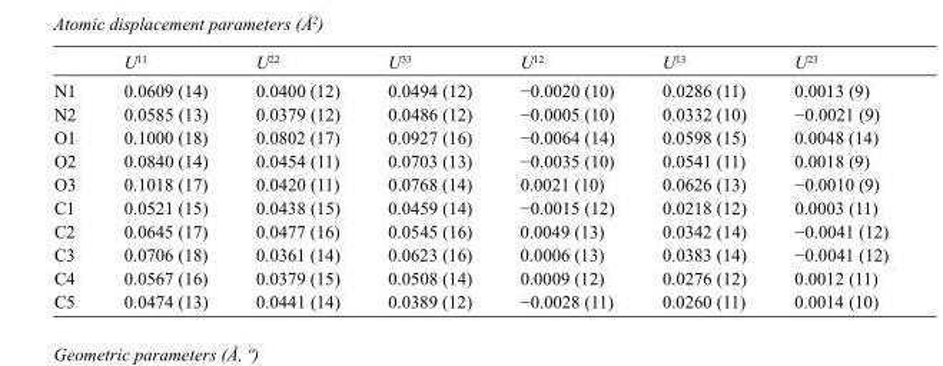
<table><thead><tr><td></td><td>U<sup>11</sup></td><td>U<sup>22</sup></td><td>U<sup>33</sup></td><td>U<sup>12</sup></td><td>U<sup>13</sup></td><td>U<sup>23</sup></td></tr></thead><tbody><tr><td>N1</td><td>0.0609 (14)</td><td>0.0400 (12)</td><td>0.0494 (12)</td><td>−0.0020 (10)</td><td>0.0286 (11)</td><td>0.0013 (9)</td></tr><tr><td>N2</td><td>0.0585 (13)</td><td>0.0379 (12)</td><td>0.0486 (12)</td><td>−0.0005 (10)</td><td>0.0332 (10)</td><td>−0.0021 (9)</td></tr><tr><td>O1</td><td>0.1000 (18)</td><td>0.0802 (17)</td><td>0.0927 (16)</td><td>−0.0064 (14)</td><td>0.0598 (15)</td><td>0.0048 (14)</td></tr><tr><td>O2</td><td>0.0840 (14)</td><td>0.0454 (11)</td><td>0.0703 (13)</td><td>−0.0035 (10)</td><td>0.0541 (11)</td><td>0.0018 (9)</td></tr><tr><td>O3</td><td>0.1018 (17)</td><td>0.0420 (11)</td><td>0.0768 (14)</td><td>0.0021 (10)</td><td>0.0626 (13)</td><td>−0.0010 (9)</td></tr><tr><td>C1</td><td>0.0521 (15)</td><td>0.0438 (15)</td><td>0.0459 (14)</td><td>−0.0015 (12)</td><td>0.0218 (12)</td><td>0.0003 (11)</td></tr><tr><td>C2</td><td>0.0645 (17)</td><td>0.0477 (16)</td><td>0.0545 (16)</td><td>0.0049 (13)</td><td>0.0342 (14)</td><td>−0.0041 (12)</td></tr><tr><td>C3</td><td>0.0706 (18)</td><td>0.0361 (14)</td><td>0.0623 (16)</td><td>0.0006 (13)</td><td>0.0383 (14)</td><td>−0.0041 (12)</td></tr><tr><td>C4</td><td>0.0567 (16)</td><td>0.0379 (15)</td><td>0.0508 (14)</td><td>0.0009 (12)</td><td>0.0276 (12)</td><td>0.0012 (11)</td></tr><tr><td>C5</td><td>0.0474 (13)</td><td>0.0441 (14)</td><td>0.0389 (12)</td><td>−0.0028 (11)</td><td>0.0260 (11)</td><td>0.0014 (10)</td></tr></tbody></table>